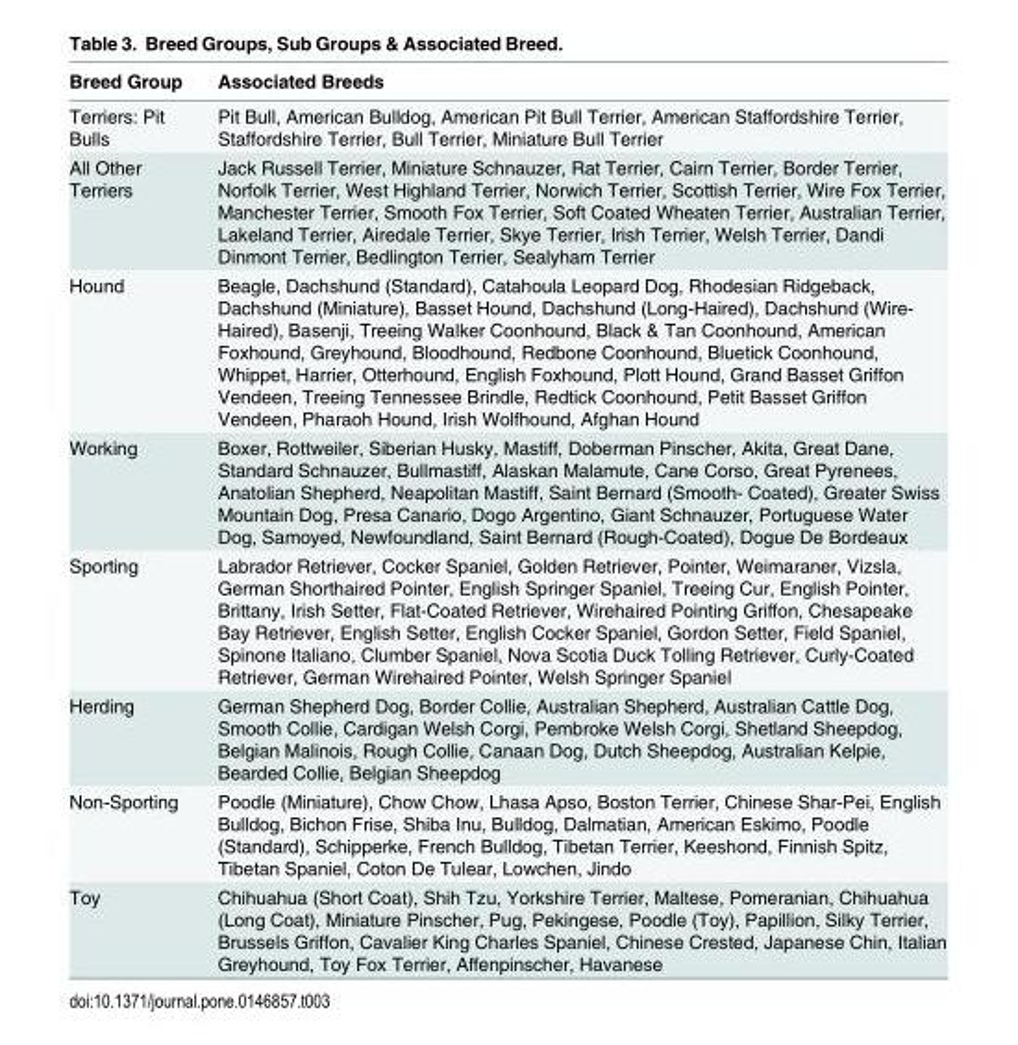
<table><thead><tr><td>Breed Group</td><td>Associated Breeds</td></tr></thead><tbody><tr><td>Terriers: Pit Bulls</td><td>Pit Bull, American Bulldog, American Pit Bull Terrier, American Staffordshire Terrier, Staffordshire Terrier, Bull Terrier, Miniature Bull Terrier</td></tr><tr><td>All Other Terriers</td><td>Jack Russell Terrier, Miniature Schnauzer, Rat Terrier, Cairn Terrier, Border Terrier, Norfolk Terrier, West Highland Terrier, Norwich Terrier, Scottish Terrier, Wire Fox Terrier, Manchester Terrier, Smooth Fox Terrier, Soft Coated Wheaten Terrier, Australian Terrier, Lakeland Terrier, Airedale Terrier, Skye Terrier, Irish Terrier, Welsh Terrier, Dandi Dinmont Terrier, Bedlington Terrier, Sealyham Terrier</td></tr><tr><td>Hound</td><td>Beagle, Dachshund (Standard), Catahoula Leopard Dog, Rhodesian Ridgeback, Dachshund (Miniature), Basset Hound, Dachshund (Long-Haired), Dachshund (Wire- Haired), Basenji, Treeing Walker Coonhound, Black &amp; Tan Coonhound, American Foxhound, Greyhound, Bloodhound, Redbone Coonhound, Bluetick Coonhound, Whippet, Harrier, Otterhound, English Foxhound, Plott Hound, Grand Basset Griffon Vendeen, Treeing Tennessee Brindle, Redtick Coonhound, Petit Basset Griffon Vendeen, Pharaoh Hound, Irish Wolfhound, Afghan Hound</td></tr><tr><td>Working</td><td>Boxer, Rottweiler, Siberian Husky, Mastiff, Doberman Pinscher, Akita, Great Dane, Standard Schnauzer, Bullmastiff, Alaskan Malamute, Cane Corso, Great Pyrenees, Anatolian Shepherd, Neapolitan Mastiff, Saint Bernard (Smooth- Coated), Greater Swiss Mountain Dog, Presa Canario, Dogo Argentino, Giant Schnauzer, Portuguese Water Dog, Samoyed, Newfoundland, Saint Bernard (Rough-Coated), Dogue De Bordeaux</td></tr><tr><td>Sporting</td><td>Labrador Retriever, Cocker Spaniel, Golden Retriever, Pointer, Weimaraner, Vizsla, German Shorthaired Pointer, English Springer Spaniel, Treeing Cur, English Pointer, Brittany, Irish Setter, Flat-Coated Retriever, Wirehaired Pointing Griffon, Chesapeake Bay Retriever, English Setter, English Cocker Spaniel, Gordon Setter, Field Spaniel, Spinone Italiano, Clumber Spaniel, Nova Scotia Duck Tolling Retriever, Curly-Coated Retriever, German Wirehaired Pointer, Welsh Springer Spaniel</td></tr><tr><td>Herding</td><td>German Shepherd Dog, Border Collie, Australian Shepherd, Australian Cattle Dog, Smooth Collie, Cardigan Welsh Corgi, Pembroke Welsh Corgi, Shetland Sheepdog, Belgian Malinois, Rough Collie, Canaan Dog, Dutch Sheepdog, Australian Kelpie, Bearded Collie, Belgian Sheepdog</td></tr><tr><td>Non-Sporting</td><td>Poodle (Miniature), Chow Chow, Lhasa Apso, Boston Terrier, Chinese Shar-Pei, English Bulldog, Bichon Frise, Shiba Inu, Bulldog, Dalmatian, American Eskimo, Poodle (Standard), Schipperke, French Bulldog, Tibetan Terrier, Keeshond, Finnish Spitz, Tibetan Spaniel, Coton De Tulear, Lowchen, Jindo</td></tr><tr><td>Toy</td><td>Chihuahua (Short Coat), Shih Tzu, Yorkshire Terrier, Maltese, Pomeranian, Chihuahua (Long Coat), Miniature Pinscher, Pug, Pekingese, Poodle (Toy), Papillion, Silky Terrier, Brussels Griffon, Cavalier King Charles Spaniel, Chinese Crested, Japanese Chin, Italian Greyhound, Toy Fox Terrier, Affenpinscher, Havanese</td></tr></tbody></table>